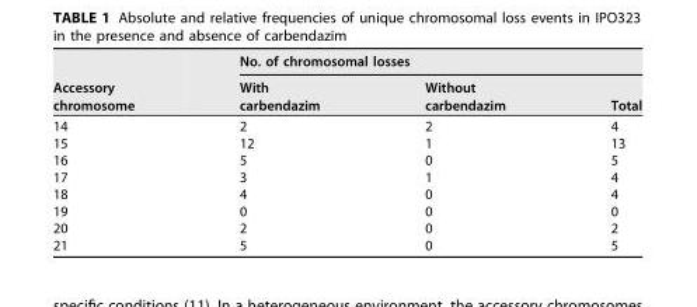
<table><thead><tr><td rowspan="2">Accessory chromosome</td><td colspan="3">No. of chromosomal losses</td></tr><tr><td>With carbendazim</td><td>Without carbendazim</td><td>Total</td></tr></thead><tbody><tr><td>14</td><td>2</td><td>2</td><td>4</td></tr><tr><td>15</td><td>12</td><td>1</td><td>13</td></tr><tr><td>16</td><td>5</td><td>0</td><td>5</td></tr><tr><td>17</td><td>3</td><td>1</td><td>4</td></tr><tr><td>18</td><td>4</td><td>0</td><td>4</td></tr><tr><td>19</td><td>0</td><td>0</td><td>0</td></tr><tr><td>20</td><td>2</td><td>0</td><td>2</td></tr><tr><td>21</td><td>5</td><td>0</td><td>5</td></tr></tbody></table>